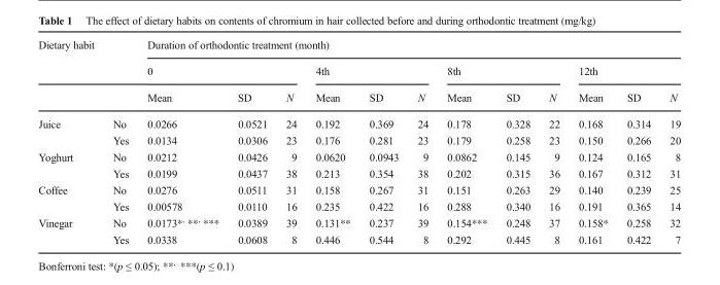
<table><thead><tr><td rowspan="3">Dietary habit</td><td rowspan="3"></td><td colspan="12">Duration of orthodontic treatment (month)</td></tr><tr><td colspan="3">0</td><td colspan="3">4th</td><td colspan="3">8th</td><td colspan="3">12th</td></tr><tr><td>Mean</td><td>SD</td><td>N</td><td>Mean</td><td>SD</td><td>N</td><td>Mean</td><td>SD</td><td>N</td><td>Mean</td><td>SD</td><td>N</td></tr></thead><tbody><tr><td rowspan="2">Juice</td><td>No</td><td>0.0266</td><td>0.0521</td><td>24</td><td>0.192</td><td>0.369</td><td>24</td><td>0.178</td><td>0.328</td><td>22</td><td>0.168</td><td>0.314</td><td>19</td></tr><tr><td>Yes</td><td>0.0134</td><td>0.0306</td><td>23</td><td>0.176</td><td>0.281</td><td>23</td><td>0.179</td><td>0.258</td><td>23</td><td>0.150</td><td>0.266</td><td>20</td></tr><tr><td rowspan="2">Yoghurt</td><td>No</td><td>0.0212</td><td>0.0426</td><td>9</td><td>0.0620</td><td>0.0943</td><td>9</td><td>0.0862</td><td>0.145</td><td>9</td><td>0.124</td><td>0.165</td><td>8</td></tr><tr><td>Yes</td><td>0.0199</td><td>0.0437</td><td>38</td><td>0.213</td><td>0.354</td><td>38</td><td>0.202</td><td>0.315</td><td>36</td><td>0.167</td><td>0.312</td><td>31</td></tr><tr><td rowspan="2">Coffee</td><td>No</td><td>0.0276</td><td>0.0511</td><td>31</td><td>0.158</td><td>0.267</td><td>31</td><td>0.151</td><td>0.263</td><td>29</td><td>0.140</td><td>0.239</td><td>25</td></tr><tr><td>Yes</td><td>0.00578</td><td>0.0110</td><td>16</td><td>0.235</td><td>0.422</td><td>16</td><td>0.288</td><td>0.340</td><td>16</td><td>0.191</td><td>0.365</td><td>14</td></tr><tr><td rowspan="2">Vinegar</td><td>No</td><td>0.0173*<sup>,</sup> **<sup>,</sup> ***</td><td>0.0389</td><td>39</td><td>0.131**</td><td>0.237</td><td>39</td><td>0.154***</td><td>0.248</td><td>37</td><td>0.158*</td><td>0.258</td><td>32</td></tr><tr><td>Yes</td><td>0.0338</td><td>0.0608</td><td>8</td><td>0.446</td><td>0.544</td><td>8</td><td>0.292</td><td>0.445</td><td>8</td><td>0.161</td><td>0.422</td><td>7</td></tr></tbody></table>